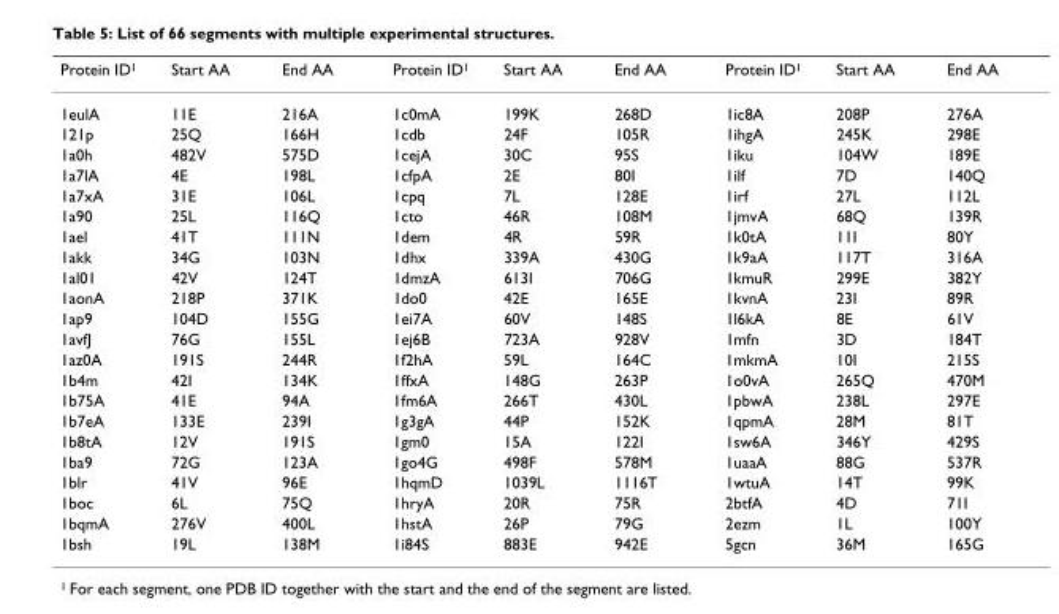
<table><thead><tr><td>Protein ID1</td><td>Start AA</td><td>End AA</td><td>Protein ID1</td><td>Start AA</td><td>End AA</td><td>Protein ID1</td><td>Start AA</td><td>End AA</td></tr></thead><tbody><tr><td>1eulA</td><td>11E</td><td>216A</td><td>1c0mA</td><td>199K</td><td>268D</td><td>1ic8A</td><td>208P</td><td>276A</td></tr><tr><td>121p</td><td>25Q</td><td>166H</td><td>1cdb</td><td>24F</td><td>105R</td><td>1ihgA</td><td>245K</td><td>298E</td></tr><tr><td>1a0h</td><td>482V</td><td>575D</td><td>1cejA</td><td>30C</td><td>95S</td><td>1iku</td><td>104W</td><td>189E</td></tr><tr><td>1a7lA</td><td>4E</td><td>198L</td><td>1cfpA</td><td>2E</td><td>80I</td><td>1ilf</td><td>7D</td><td>140Q</td></tr><tr><td>1a7xA</td><td>31E</td><td>106L</td><td>1cpq</td><td>7L</td><td>128E</td><td>1irf</td><td>27L</td><td>112L</td></tr><tr><td>1a90</td><td>25L</td><td>116Q</td><td>1cto</td><td>46R</td><td>108M</td><td>1jmvA</td><td>68Q</td><td>139R</td></tr><tr><td>1ael</td><td>41T</td><td>111N</td><td>1dem</td><td>4R</td><td>59R</td><td>1k0tA</td><td>11I</td><td>80Y</td></tr><tr><td>1akk</td><td>34G</td><td>103N</td><td>1dhx</td><td>339A</td><td>430G</td><td>1k9aA</td><td>117T</td><td>316A</td></tr><tr><td>1al01</td><td>42V</td><td>124T</td><td>1dmzA</td><td>613I</td><td>706G</td><td>1kmuR</td><td>299E</td><td>382Y</td></tr><tr><td>1aonA</td><td>218P</td><td>371K</td><td>1do0</td><td>42E</td><td>165E</td><td>1kvnA</td><td>23I</td><td>89R</td></tr><tr><td>1ap9</td><td>104D</td><td>155G</td><td>1ei7A</td><td>60V</td><td>148S</td><td>1l6kA</td><td>8E</td><td>61V</td></tr><tr><td>1avfJ</td><td>76G</td><td>155L</td><td>1ej6B</td><td>723A</td><td>928V</td><td>1mfn</td><td>3D</td><td>184T</td></tr><tr><td>1az0A</td><td>191S</td><td>244R</td><td>1f2hA</td><td>59L</td><td>164C</td><td>1mkmA</td><td>10I</td><td>215S</td></tr><tr><td>1b4m</td><td>42I</td><td>134K</td><td>1ffxA</td><td>148G</td><td>263P</td><td>1o0vA</td><td>265Q</td><td>470M</td></tr><tr><td>1b75A</td><td>41E</td><td>94A</td><td>1fm6A</td><td>266T</td><td>430L</td><td>1pbwA</td><td>238L</td><td>297E</td></tr><tr><td>1b7eA</td><td>133E</td><td>239I</td><td>1g3gA</td><td>44P</td><td>152K</td><td>1qpmA</td><td>28M</td><td>81T</td></tr><tr><td>1b8tA</td><td>12V</td><td>191S</td><td>1gm0</td><td>15A</td><td>122I</td><td>1sw6A</td><td>346Y</td><td>429S</td></tr><tr><td>1ba9</td><td>72G</td><td>123A</td><td>1go4G</td><td>498F</td><td>578M</td><td>1uaaA</td><td>88G</td><td>537R</td></tr><tr><td>1blr</td><td>41V</td><td>96E</td><td>1hqmD</td><td>1039L</td><td>1116T</td><td>1wtuA</td><td>14T</td><td>99K</td></tr><tr><td>1boc</td><td>6L</td><td>75Q</td><td>1hryA</td><td>20R</td><td>75R</td><td>2btfA</td><td>4D</td><td>71I</td></tr><tr><td>1bqmA</td><td>276V</td><td>400L</td><td>1hstA</td><td>26P</td><td>79G</td><td>2ezm</td><td>1L</td><td>100Y</td></tr><tr><td>1bsh</td><td>19L</td><td>138M</td><td>1i84S</td><td>883E</td><td>942E</td><td>5gcn</td><td>36M</td><td>165G</td></tr></tbody></table>